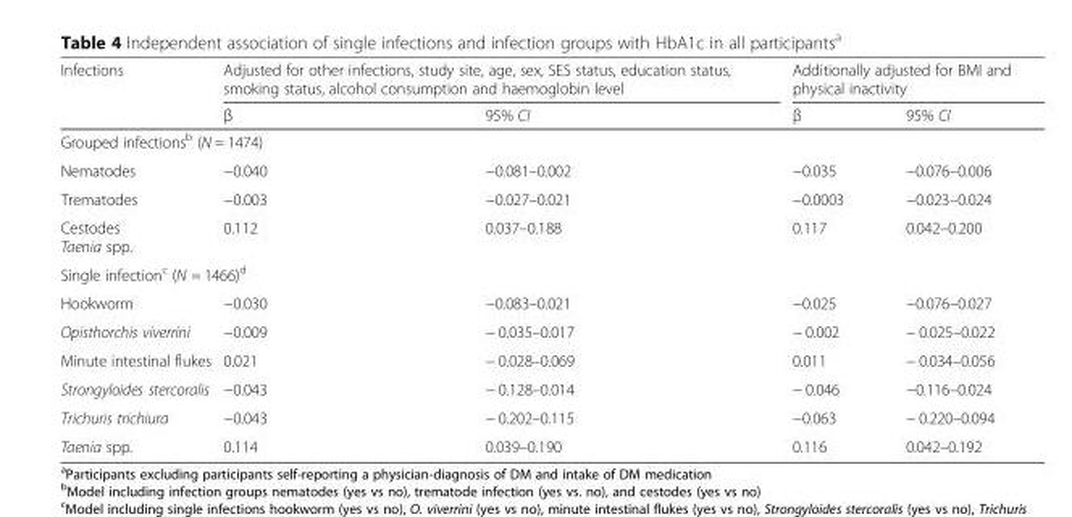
<table><thead><tr><td rowspan="2">Infections</td><td colspan="2">Adjusted for other infections, study site, age, sex, SES status, education status, smoking status, alcohol consumption and haemoglobin level</td><td colspan="2">Additionally adjusted for BMI and physical inactivity</td></tr><tr><td>β</td><td>95% CI</td><td>β</td><td>95% CI</td></tr></thead><tbody><tr><td colspan="5">Grouped infections<sup>b</sup> (N = 1474)</td></tr><tr><td>Nematodes</td><td>−0.040</td><td>−0.081–0.002</td><td>−0.035</td><td>−0.076–0.006</td></tr><tr><td>Trematodes</td><td>−0.003</td><td>−0.027–0.021</td><td>−0.0003</td><td>−0.023–0.024</td></tr><tr><td>Cestodes Taenia spp.</td><td>0.112</td><td>0.037–0.188</td><td>0.117</td><td>0.042–0.200</td></tr><tr><td colspan="5">Single infection<sup>c</sup> (N = 1466)<sup>d</sup></td></tr><tr><td>Hookworm</td><td>−0.030</td><td>−0.083–0.021</td><td>−0.025</td><td>−0.076–0.027</td></tr><tr><td>Opisthorchis viverrini</td><td>−0.009</td><td>− 0.035–0.017</td><td>− 0.002</td><td>− 0.025–0.022</td></tr><tr><td>Minute intestinal flukes</td><td>0.021</td><td>− 0.028–0.069</td><td>0.011</td><td>− 0.034–0.056</td></tr><tr><td>Strongyloides stercoralis</td><td>−0.043</td><td>− 0.128–0.014</td><td>− 0.046</td><td>−0.116–0.024</td></tr><tr><td>Trichuris trichiura</td><td>−0.043</td><td>− 0.202–0.115</td><td>−0.063</td><td>− 0.220–0.094</td></tr><tr><td>Taenia spp.</td><td>0.114</td><td>0.039–0.190</td><td>0.116</td><td>0.042–0.192</td></tr></tbody></table>